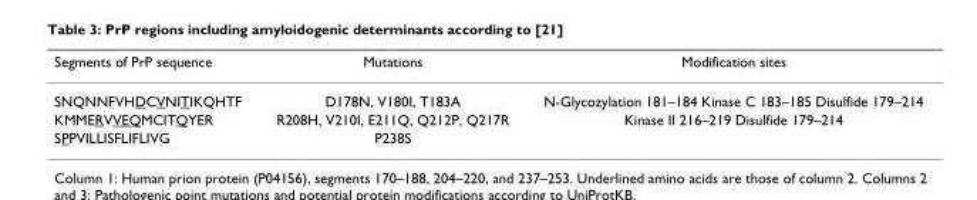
<table><thead><tr><td>Segments of PrP sequence</td><td>Mutations</td><td>Modification sites</td></tr></thead><tbody><tr><td>SNQNNFVHDCVNITIKQHTF</td><td>D178N, V180I, T183A</td><td>N-Glycozylation 181–184 Kinase C 183–185 Disulfide 179–214</td></tr><tr><td>KMMERVVEQMCITQYER</td><td>R208H, V210I, E211Q, Q212P, Q217R</td><td>Kinase II 216–219 Disulfide 179–214</td></tr><tr><td>SPPVILLISFLIFLIVG</td><td>P238S</td><td></td></tr></tbody></table>